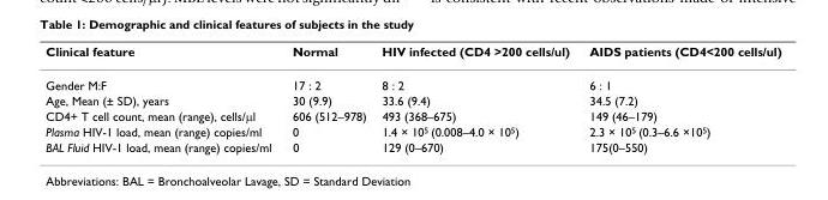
<table><thead><tr><td>Clinical feature</td><td>Normal</td><td>HIV infected (CD4 &gt;200 cells/ul)</td><td>AIDS patients (CD4&lt;200 cells/ul)</td></tr></thead><tbody><tr><td>Gender M:F</td><td>17 : 2</td><td>8 : 2</td><td>6 : 1</td></tr><tr><td>Age, Mean (± SD), years</td><td>30 (9.9)</td><td>33.6 (9.4)</td><td>34.5 (7.2)</td></tr><tr><td>CD4+ T cell count, mean (range), cells/μl</td><td>606 (512–978)</td><td>493 (368–675)</td><td>149 (46–179)</td></tr><tr><td>Plasma HIV-1 load, mean (range) copies/ml</td><td>0</td><td>1.4 × 10<sup>5</sup> (0.008–4.0 × 10<sup>5</sup>)</td><td>2.3 × 10<sup>5</sup> (0.3–6.6 ×10<sup>5</sup>)</td></tr><tr><td>BAL Fluid HIV-1 load, mean (range) copies/ml</td><td>0</td><td>129 (0–670)</td><td>175(0–550)</td></tr></tbody></table>